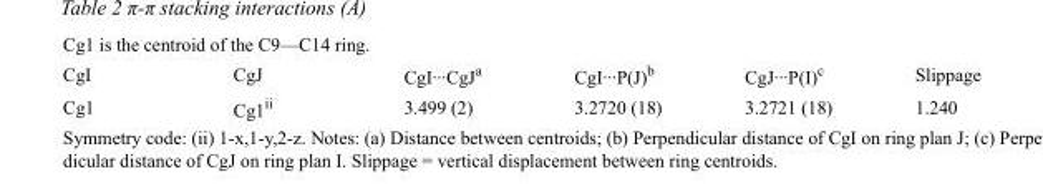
<table><tbody><tr><td>CgI</td><td>CgJ</td><td>CgI···CgJ<sup>a</sup></td><td>CgI···P(J)<sup>b</sup></td><td>CgJ···P(I)<sup>c</sup></td><td>Slippage</td></tr><tr><td>Cg1</td><td>Cg1<sup>ii</sup></td><td>3.499 (2)</td><td>3.2720 (18)</td><td>3.2721 (18)</td><td>1.240</td></tr></tbody></table>